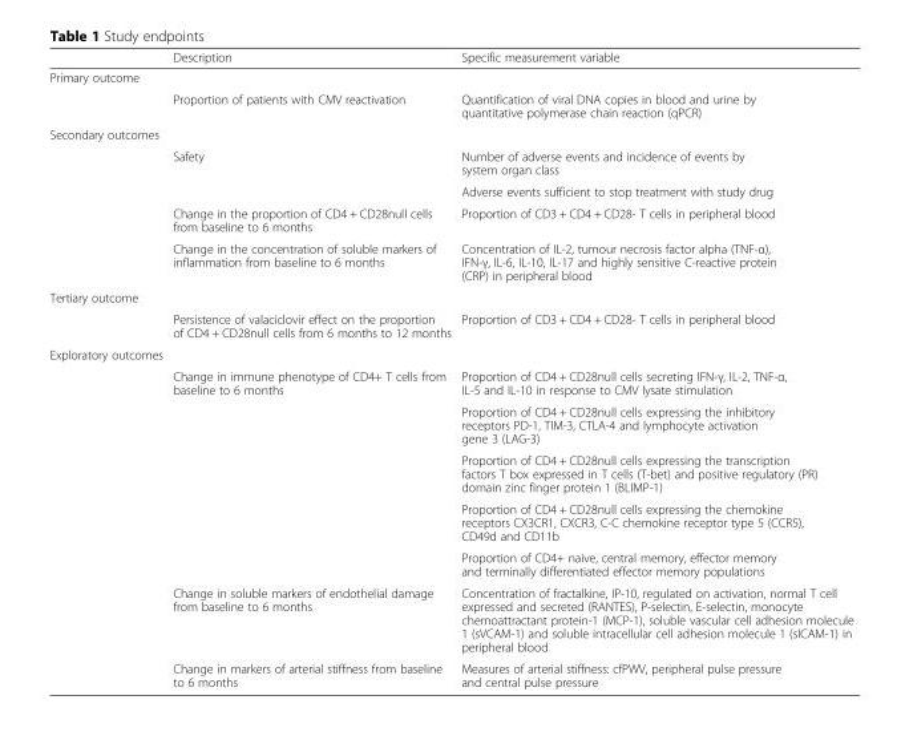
<table><thead><tr><td></td><td>Description</td><td>Specific measurement variable</td></tr></thead><tbody><tr><td colspan="3">Primary outcome</td></tr><tr><td></td><td>Proportion of patients with CMV reactivation</td><td>Quantification of viral DNA copies in blood and urine by quantitative polymerase chain reaction (qPCR)</td></tr><tr><td colspan="3">Secondary outcomes</td></tr><tr><td rowspan="2"></td><td rowspan="2">Safety</td><td>Number of adverse events and incidence of events by system organ class</td></tr><tr><td>Adverse events sufficient to stop treatment with study drug</td></tr><tr><td></td><td>Change in the proportion of CD4 + CD28null cells from baseline to 6 months</td><td>Proportion of CD3 + CD4 + CD28- T cells in peripheral blood</td></tr><tr><td></td><td>Change in the concentration of soluble markers of inflammation from baseline to 6 months</td><td>Concentration of IL-2, tumour necrosis factor alpha (TNF-α), IFN-γ, IL-6, IL-10, IL-17 and highly sensitive C-reactive protein (CRP) in peripheral blood</td></tr><tr><td colspan="3">Tertiary outcome</td></tr><tr><td></td><td>Persistence of valaciclovir effect on the proportion of CD4 + CD28null cells from 6 months to 12 months</td><td>Proportion of CD3 + CD4 + CD28- T cells in peripheral blood</td></tr><tr><td colspan="3">Exploratory outcomes</td></tr><tr><td rowspan="5"></td><td rowspan="5">Change in immune phenotype of CD4+ T cells from baseline to 6 months</td><td>Proportion of CD4 + CD28null cells secreting IFN-γ, IL-2, TNF-α, IL-5 and IL-10 in response to CMV lysate stimulation</td></tr><tr><td>Proportion of CD4 + CD28null cells expressing the inhibitory receptors PD-1, TIM-3, CTLA-4 and lymphocyte activation gene 3 (LAG-3)</td></tr><tr><td>Proportion of CD4 + CD28null cells expressing the transcription factors T box expressed in T cells (T-bet) and positive regulatory (PR) domain zinc finger protein 1 (BLIMP-1)</td></tr><tr><td>Proportion of CD4 + CD28null cells expressing the chemokine receptors CX3CR1, CXCR3, C-C chemokine receptor type 5 (CCR5), CD49d and CD11b</td></tr><tr><td>Proportion of CD4+ naive, central memory, effector memory and terminally differentiated effector memory populations</td></tr><tr><td></td><td>Change in soluble markers of endothelial damage from baseline to 6 months</td><td>Concentration of fractalkine, IP-10, regulated on activation, normal T cell expressed and secreted (RANTES), P-selectin, E-selectin, monocyte chemoattractant protein-1 (MCP-1), soluble vascular cell adhesion molecule 1 (sVCAM-1) and soluble intracellular cell adhesion molecule 1 (sICAM-1) in peripheral blood</td></tr><tr><td></td><td>Change in markers of arterial stiffness from baseline to 6 months</td><td>Measures of arterial stiffness: cfPWV, peripheral pulse pressure and central pulse pressure</td></tr></tbody></table>